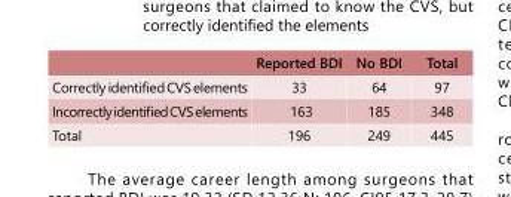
<table><thead><tr><td></td><td>Reported BDI</td><td>No BDI</td><td>Total</td></tr></thead><tbody><tr><td>Correctly identified CVS elements</td><td>33</td><td>64</td><td>97</td></tr><tr><td>Incorrectly identified CVS elements</td><td>163</td><td>185</td><td>348</td></tr><tr><td>Total</td><td>196</td><td>249</td><td>445</td></tr></tbody></table>